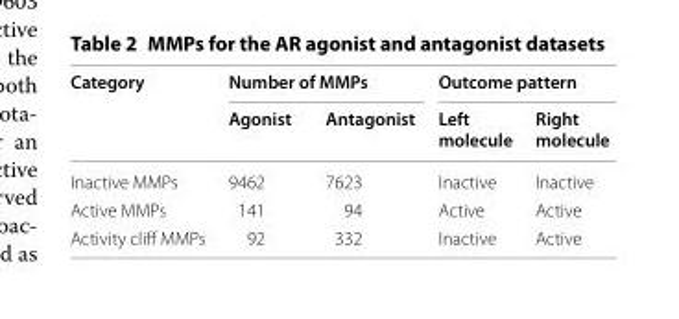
<table><thead><tr><td rowspan="2">Category</td><td colspan="2">Number of MMPs</td><td colspan="2">Outcome pattern</td></tr><tr><td>Agonist</td><td>Antagonist</td><td>Left molecule</td><td>Right molecule</td></tr></thead><tbody><tr><td>Inactive MMPs</td><td>9462</td><td>7623</td><td>Inactive</td><td>Inactive</td></tr><tr><td>Active MMPs</td><td>141</td><td>94</td><td>Active</td><td>Active</td></tr><tr><td>Activity cliff MMPs</td><td>92</td><td>332</td><td>Inactive</td><td>Active</td></tr></tbody></table>